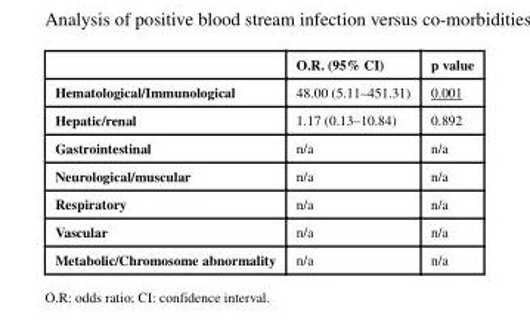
<table><thead><tr><td></td><td>O.R. (95% CI)</td><td>p value</td></tr></thead><tbody><tr><td>Hematological/Immunological</td><td>48.00 (5.11–451.31)</td><td>0.001</td></tr><tr><td>Hepatic/renal</td><td>1.17 (0.13–10.84)</td><td>0.892</td></tr><tr><td>Gastrointestinal</td><td>n/a</td><td>n/a</td></tr><tr><td>Neurological/muscular</td><td>n/a</td><td>n/a</td></tr><tr><td>Respiratory</td><td>n/a</td><td>n/a</td></tr><tr><td>Vascular</td><td>n/a</td><td>n/a</td></tr><tr><td>Metabolic/Chromosome abnormality</td><td>n/a</td><td>n/a</td></tr></tbody></table>